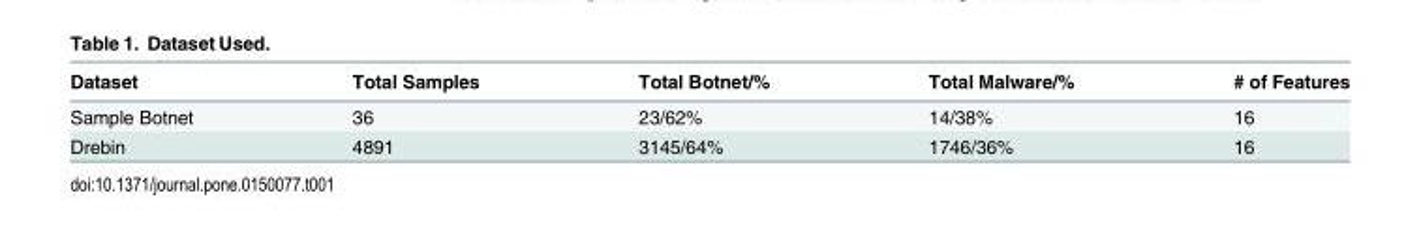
<table><thead><tr><td>Dataset</td><td>Total Samples</td><td>Total Botnet/%</td><td>Total Malware/%</td><td># of Features</td></tr></thead><tbody><tr><td>Sample Botnet</td><td>36</td><td>23/62%</td><td>14/38%</td><td>16</td></tr><tr><td>Drebin</td><td>4891</td><td>3145/64%</td><td>1746/36%</td><td>16</td></tr></tbody></table>